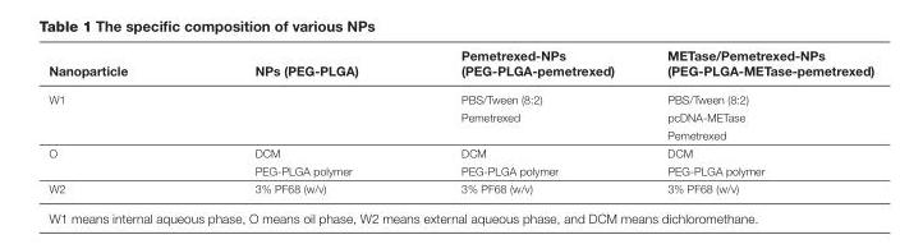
<table><thead><tr><td>Nanoparticle</td><td>NPs (PEG-PLGA)</td><td>Pemetrexed-NPs (PEG-PLGA-pemetrexed)</td><td>METase/Pemetrexed-NPs (PEG-PLGA-METase-pemetrexed)</td></tr></thead><tbody><tr><td>W1</td><td></td><td>PBS/Tween (8:2) Pemetrexed</td><td>PBS/Tween (8:2) pcDNA-METase Pemetrexed</td></tr><tr><td rowspan="2">O</td><td>DCM</td><td>DCM</td><td>DCM</td></tr><tr><td>PEG-PLGA polymer</td><td>PEG-PLGA polymer</td><td>PEG-PLGA polymer</td></tr><tr><td>W2</td><td>3% PF68 (w/v)</td><td>3% PF68 (w/v)</td><td>3% PF68 (w/v)</td></tr></tbody></table>